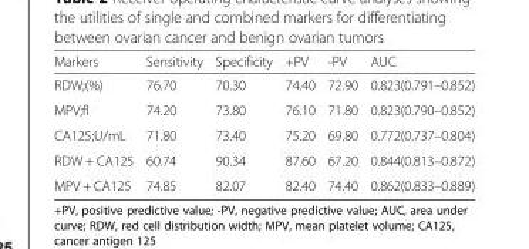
<table><thead><tr><td>Markers</td><td>Sensitivity</td><td>Specificity</td><td>+PV</td><td>-PV</td><td>AUC</td></tr></thead><tbody><tr><td>RDW;(%)</td><td>76.70</td><td>70.30</td><td>74.40</td><td>72.90</td><td>0.823(0.791–0.852)</td></tr><tr><td>MPV;fl</td><td>74.20</td><td>73.80</td><td>76.10</td><td>71.80</td><td>0.823(0.790–0.852)</td></tr><tr><td>CA125;U/mL</td><td>71.80</td><td>73.40</td><td>75.20</td><td>69.80</td><td>0.772(0.737–0.804)</td></tr><tr><td>RDW + CA125</td><td>60.74</td><td>90.34</td><td>87.60</td><td>67.20</td><td>0.844(0.813–0.872)</td></tr><tr><td>MPV + CA125</td><td>74.85</td><td>82.07</td><td>82.40</td><td>74.40</td><td>0.862(0.833–0.889)</td></tr></tbody></table>